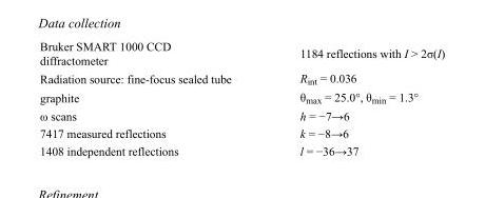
<table><tbody><tr><td>Bruker SMART 1000 CCD diffractometer</td><td>1184 reflections with I &gt; 2σ(I)</td></tr><tr><td>Radiation source: fine-focus sealed tube</td><td>R<sub>int</sub> = 0.036</td></tr><tr><td>graphite</td><td>θ<sub>max</sub> = 25.0°, θ<sub>min</sub> = 1.3°</td></tr><tr><td>ω scans</td><td>h = −7→6</td></tr><tr><td>7417 measured reflections</td><td>k = −8→6</td></tr><tr><td>1408 independent reflections</td><td>l = −36→37</td></tr></tbody></table>